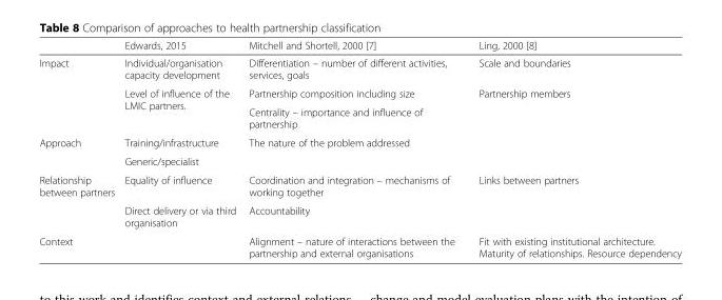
<table><thead><tr><td></td><td>Edwards, 2015</td><td>Mitchell and Shortell, 2000 [7]</td><td>Ling, 2000 [8]</td></tr></thead><tbody><tr><td rowspan="3">Impact</td><td>Individual/organisation capacity development</td><td>Differentiation – number of different activities, services, goals</td><td>Scale and boundaries</td></tr><tr><td rowspan="2">Level of influence of the LMIC partners.</td><td>Partnership composition including size</td><td rowspan="2">Partnership members</td></tr><tr><td>Centrality – importance and influence of partnership</td></tr><tr><td rowspan="2">Approach</td><td>Training/infrastructure</td><td rowspan="2">The nature of the problem addressed</td><td rowspan="2"></td></tr><tr><td>Generic/specialist</td></tr><tr><td rowspan="2">Relationship between partners</td><td>Equality of influence</td><td>Coordination and integration – mechanisms of working together</td><td rowspan="2">Links between partners</td></tr><tr><td>Direct delivery or via third organisation</td><td>Accountability</td></tr><tr><td>Context</td><td></td><td>Alignment – nature of interactions between the partnership and external organisations</td><td>Fit with existing institutional architecture. Maturity of relationships. Resource dependency</td></tr></tbody></table>